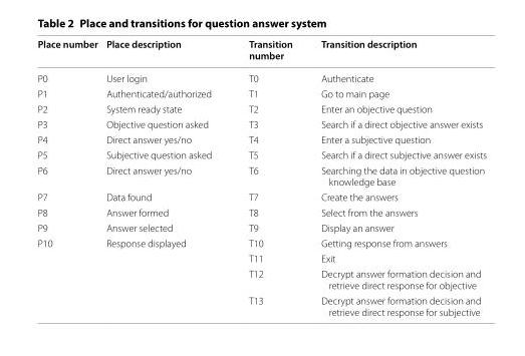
<table><thead><tr><td>Place number</td><td>Place description</td><td>Transition number</td><td>Transition description</td></tr></thead><tbody><tr><td>P0</td><td>User login</td><td>T0</td><td>Authenticate</td></tr><tr><td>P1</td><td>Authenticated/authorized</td><td>T1</td><td>Go to main page</td></tr><tr><td>P2</td><td>System ready state</td><td>T2</td><td>Enter an objective question</td></tr><tr><td>P3</td><td>Objective question asked</td><td>T3</td><td>Search if a direct objective answer exists</td></tr><tr><td>P4</td><td>Direct answer yes/no</td><td>T4</td><td>Enter a subjective question</td></tr><tr><td>P5</td><td>Subjective question asked</td><td>T5</td><td>Search if a direct subjective answer exists</td></tr><tr><td>P6</td><td>Direct answer yes/no</td><td>T6</td><td>Searching the data in objective question knowledge base</td></tr><tr><td>P7</td><td>Data found</td><td>T7</td><td>Create the answers</td></tr><tr><td>P8</td><td>Answer formed</td><td>T8</td><td>Select from the answers</td></tr><tr><td>P9</td><td>Answer selected</td><td>T9</td><td>Display an answer</td></tr><tr><td rowspan="4">P10</td><td>Response displayed</td><td>T10</td><td>Getting response from answers</td></tr><tr><td></td><td>T11</td><td>Exit</td></tr><tr><td></td><td>T12</td><td>Decrypt answer formation decision and retrieve direct response for objective</td></tr><tr><td></td><td>T13</td><td>Decrypt answer formation decision and retrieve direct response for subjective</td></tr></tbody></table>